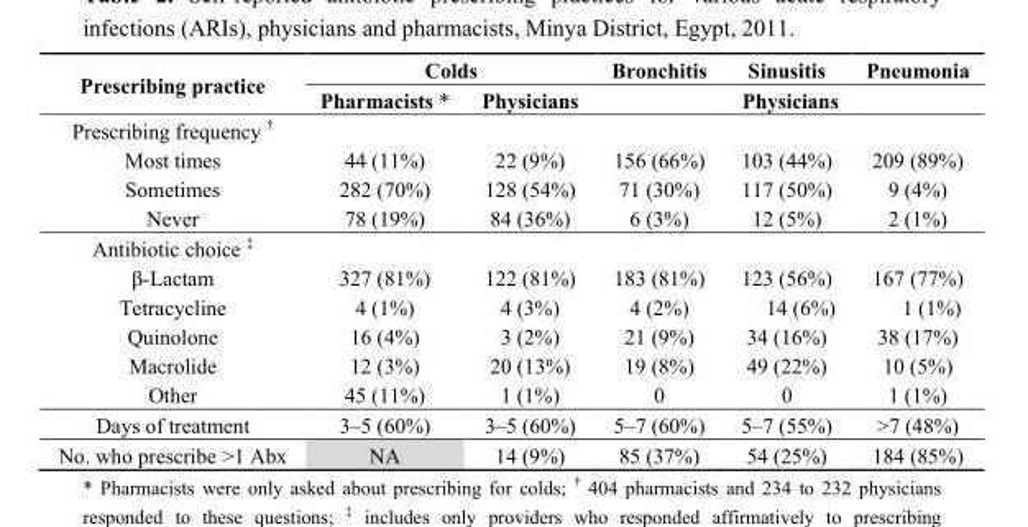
<table><thead><tr><td rowspan="2">Prescribing practice</td><td colspan="2">Colds</td><td>Bronchitis</td><td>Sinusitis</td><td>Pneumonia</td></tr><tr><td>Pharmacists *</td><td>Physicians</td><td colspan="3">Physicians</td></tr></thead><tbody><tr><td colspan="6">Prescribing frequency <sup>†</sup></td></tr><tr><td>Most times</td><td>44 (11%)</td><td>22 (9%)</td><td>156 (66%)</td><td>103 (44%)</td><td>209 (89%)</td></tr><tr><td>Sometimes</td><td>282 (70%)</td><td>128 (54%)</td><td>71 (30%)</td><td>117 (50%)</td><td>9 (4%)</td></tr><tr><td>Never</td><td>78 (19%)</td><td>84 (36%)</td><td>6 (3%)</td><td>12 (5%)</td><td>2 (1%)</td></tr><tr><td colspan="6">Antibiotic choice <sup>‡</sup></td></tr><tr><td>β-Lactam</td><td>327 (81%)</td><td>122 (81%)</td><td>183 (81%)</td><td>123 (56%)</td><td>167 (77%)</td></tr><tr><td>Tetracycline</td><td>4 (1%)</td><td>4 (3%)</td><td>4 (2%)</td><td>14 (6%)</td><td>1 (1%)</td></tr><tr><td>Quinolone</td><td>16 (4%)</td><td>3 (2%)</td><td>21 (9%)</td><td>34 (16%)</td><td>38 (17%)</td></tr><tr><td>Macrolide</td><td>12 (3%)</td><td>20 (13%)</td><td>19 (8%)</td><td>49 (22%)</td><td>10 (5%)</td></tr><tr><td>Other</td><td>45 (11%)</td><td>1 (1%)</td><td>0</td><td>0</td><td>1 (1%)</td></tr><tr><td>Days of treatment</td><td>3–5 (60%)</td><td>3–5 (60%)</td><td>5–7 (60%)</td><td>5–7 (55%)</td><td>&gt;7 (48%)</td></tr><tr><td>No. who prescribe &gt;1 Abx</td><td>NA</td><td>14 (9%)</td><td>85 (37%)</td><td>54 (25%)</td><td>184 (85%)</td></tr></tbody></table>